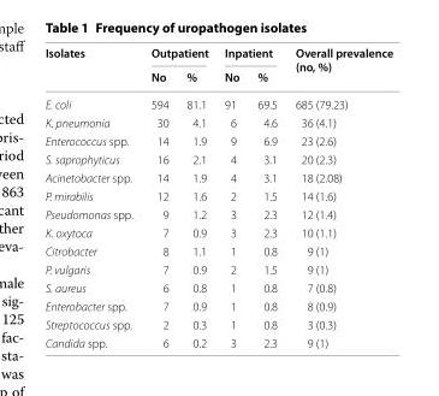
<table><thead><tr><td rowspan="2">Isolates</td><td colspan="2">Outpatient</td><td colspan="2">Inpatient</td><td rowspan="2">Overall prevalence (no, %)</td></tr><tr><td>No</td><td>%</td><td>No</td><td>%</td></tr></thead><tbody><tr><td>E. coli</td><td>594</td><td>81.1</td><td>91</td><td>69.5</td><td>685 (79.23)</td></tr><tr><td>K. pneumonia</td><td>30</td><td>4.1</td><td>6</td><td>4.6</td><td>36 (4.1)</td></tr><tr><td>Enterococcus spp.</td><td>14</td><td>1.9</td><td>9</td><td>6.9</td><td>23 (2.6)</td></tr><tr><td>S. saprophyticus</td><td>16</td><td>2.1</td><td>4</td><td>3.1</td><td>20 (2.3)</td></tr><tr><td>Acinetobacter spp.</td><td>14</td><td>1.9</td><td>4</td><td>3.1</td><td>18 (2.08)</td></tr><tr><td>P. mirabilis</td><td>12</td><td>1.6</td><td>2</td><td>1.5</td><td>14 (1.6)</td></tr><tr><td>Pseudomonas spp.</td><td>9</td><td>1.2</td><td>3</td><td>2.3</td><td>12 (1.4)</td></tr><tr><td>K. oxytoca</td><td>7</td><td>0.9</td><td>3</td><td>2.3</td><td>10 (1.1)</td></tr><tr><td>Citrobacter</td><td>8</td><td>1.1</td><td>1</td><td>0.8</td><td>9 (1)</td></tr><tr><td>P. vulgaris</td><td>7</td><td>0.9</td><td>2</td><td>1.5</td><td>9 (1)</td></tr><tr><td>S. aureus</td><td>6</td><td>0.8</td><td>1</td><td>0.8</td><td>7 (0.8)</td></tr><tr><td>Enterobacter spp.</td><td>7</td><td>0.9</td><td>1</td><td>0.8</td><td>8 (0.9)</td></tr><tr><td>Streptococcus spp.</td><td>2</td><td>0.3</td><td>1</td><td>0.8</td><td>3 (0.3)</td></tr><tr><td>Candida spp.</td><td>6</td><td>0.2</td><td>3</td><td>2.3</td><td>9 (1)</td></tr></tbody></table>